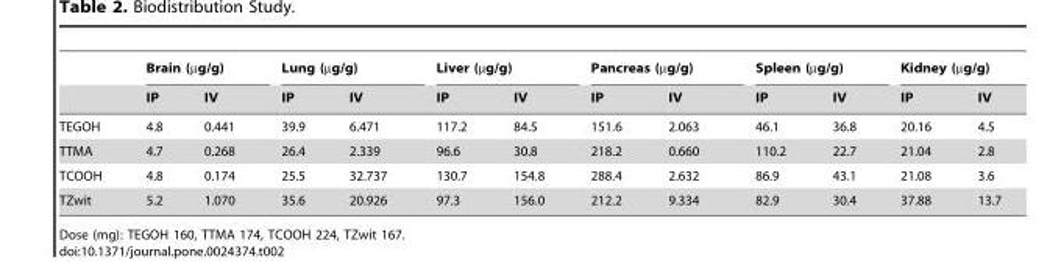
<table><thead><tr><td rowspan="2"></td><td colspan="2">Brain (µg/g)</td><td colspan="2">Lung (µg/g)</td><td colspan="2">Liver (µg/g)</td><td colspan="2">Pancreas (µg/g)</td><td colspan="2">Spleen (µg/g)</td><td colspan="2">Kidney (µg/g)</td></tr><tr><td>IP</td><td>IV</td><td>IP</td><td>IV</td><td>IP</td><td>IV</td><td>IP</td><td>IV</td><td>IP</td><td>IV</td><td>IP</td><td>IV</td></tr></thead><tbody><tr><td>TEGOH</td><td>4.8</td><td>0.441</td><td>39.9</td><td>6.471</td><td>117.2</td><td>84.5</td><td>151.6</td><td>2.063</td><td>46.1</td><td>36.8</td><td>20.16</td><td>4.5</td></tr><tr><td>TTMA</td><td>4.7</td><td>0.268</td><td>26.4</td><td>2.339</td><td>96.6</td><td>30.8</td><td>218.2</td><td>0.660</td><td>110.2</td><td>22.7</td><td>21.04</td><td>2.8</td></tr><tr><td>TCOOH</td><td>4.8</td><td>0.174</td><td>25.5</td><td>32.737</td><td>130.7</td><td>154.8</td><td>288.4</td><td>2.632</td><td>86.9</td><td>43.1</td><td>21.08</td><td>3.6</td></tr><tr><td>TZwit</td><td>5.2</td><td>1.070</td><td>35.6</td><td>20.926</td><td>97.3</td><td>156.0</td><td>212.2</td><td>9.334</td><td>82.9</td><td>30.4</td><td>37.88</td><td>13.7</td></tr></tbody></table>